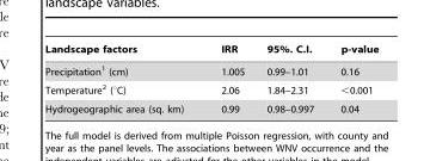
<table><thead><tr><td>Landscape factors</td><td>IRR</td><td>95%. C.I.</td><td>p-value</td></tr></thead><tbody><tr><td>Precipitation<sup>1</sup> (cm)</td><td>1.005</td><td>0.99–1.01</td><td>0.16</td></tr><tr><td>Temperature<sup>2</sup> (°C)</td><td>2.06</td><td>1.84–2.31</td><td>&lt;0.001</td></tr><tr><td>Hydrogeographic area (sq. km)</td><td>0.99</td><td>0.98–0.997</td><td>0.04</td></tr></tbody></table>